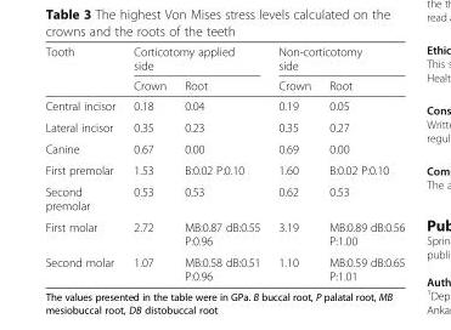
<table><thead><tr><td rowspan="2">Tooth</td><td colspan="2">Corticotomy applied side</td><td colspan="2">Non-corticotomy side</td></tr><tr><td>Crown</td><td>Root</td><td>Crown</td><td>Root</td></tr></thead><tbody><tr><td>Central incisor</td><td>0.18</td><td>0.04</td><td>0.19</td><td>0.05</td></tr><tr><td>Lateral incisor</td><td>0.35</td><td>0.23</td><td>0.35</td><td>0.27</td></tr><tr><td>Canine</td><td>0.67</td><td>0.00</td><td>0.69</td><td>0.00</td></tr><tr><td>First premolar</td><td>1.53</td><td>B:0.02 P:0.10</td><td>1.60</td><td>B:0.02 P:0.10</td></tr><tr><td>Second premolar</td><td>0.53</td><td>0.53</td><td>0.62</td><td>0.53</td></tr><tr><td>First molar</td><td>2.72</td><td>MB:0.87 dB:0.55 P:0.96</td><td>3.19</td><td>MB:0.89 dB:0.56 P:1.00</td></tr><tr><td>Second molar</td><td>1.07</td><td>MB:0.58 dB:0.51 P:0.96</td><td>1.10</td><td>MB:0.59 dB:0.65 P:1.01</td></tr></tbody></table>